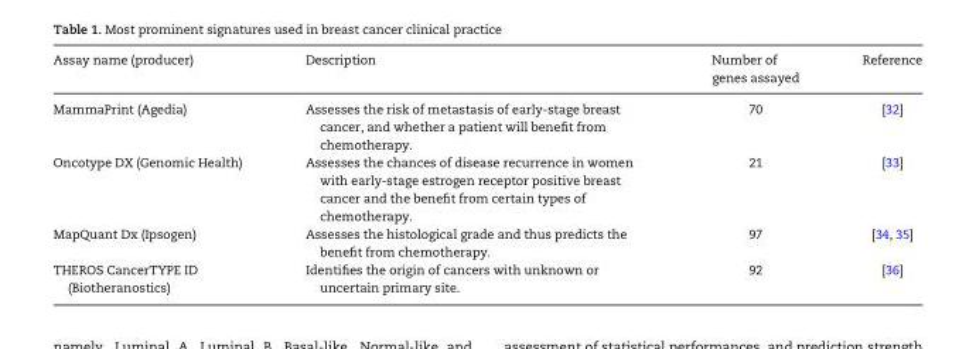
<table><thead><tr><td>Assay name (producer)</td><td>Description</td><td>Number of genes assayed</td><td>Reference</td></tr></thead><tbody><tr><td>MammaPrint (Agedia)</td><td>Assesses the risk of metastasis of early-stage breast cancer, and whether a patient will benefit from chemotherapy.</td><td>70</td><td>[32]</td></tr><tr><td>Oncotype DX (Genomic Health)</td><td>Assesses the chances of disease recurrence in women with early-stage estrogen receptor positive breast cancer and the benefit from certain types of chemotherapy.</td><td>21</td><td>[33]</td></tr><tr><td>MapQuant Dx (Ipsogen)</td><td>Assesses the histological grade and thus predicts the benefit from chemotherapy.</td><td>97</td><td>[34, 35]</td></tr><tr><td>THEROS CancerTYPE ID (Biotheranostics)</td><td>Identifies the origin of cancers with unknown or uncertain primary site.</td><td>92</td><td>[36]</td></tr></tbody></table>